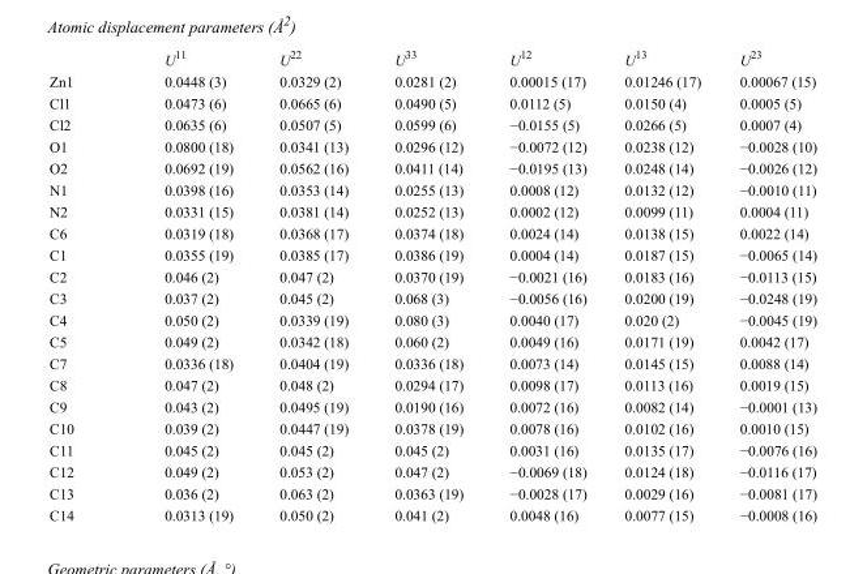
<table><thead><tr><td></td><td>U<sup>11</sup></td><td>U<sup>22</sup></td><td>U<sup>33</sup></td><td>U<sup>12</sup></td><td>U<sup>13</sup></td><td>U<sup>23</sup></td></tr></thead><tbody><tr><td>Zn1</td><td>0.0448 (3)</td><td>0.0329 (2)</td><td>0.0281 (2)</td><td>0.00015 (17)</td><td>0.01246 (17)</td><td>0.00067 (15)</td></tr><tr><td>Cl1</td><td>0.0473 (6)</td><td>0.0665 (6)</td><td>0.0490 (5)</td><td>0.0112 (5)</td><td>0.0150 (4)</td><td>0.0005 (5)</td></tr><tr><td>Cl2</td><td>0.0635 (6)</td><td>0.0507 (5)</td><td>0.0599 (6)</td><td>−0.0155 (5)</td><td>0.0266 (5)</td><td>0.0007 (4)</td></tr><tr><td>O1</td><td>0.0800 (18)</td><td>0.0341 (13)</td><td>0.0296 (12)</td><td>−0.0072 (12)</td><td>0.0238 (12)</td><td>−0.0028 (10)</td></tr><tr><td>O2</td><td>0.0692 (19)</td><td>0.0562 (16)</td><td>0.0411 (14)</td><td>−0.0195 (13)</td><td>0.0248 (14)</td><td>−0.0026 (12)</td></tr><tr><td>N1</td><td>0.0398 (16)</td><td>0.0353 (14)</td><td>0.0255 (13)</td><td>0.0008 (12)</td><td>0.0132 (12)</td><td>−0.0010 (11)</td></tr><tr><td>N2</td><td>0.0331 (15)</td><td>0.0381 (14)</td><td>0.0252 (13)</td><td>0.0002 (12)</td><td>0.0099 (11)</td><td>0.0004 (11)</td></tr><tr><td>C6</td><td>0.0319 (18)</td><td>0.0368 (17)</td><td>0.0374 (18)</td><td>0.0024 (14)</td><td>0.0138 (15)</td><td>0.0022 (14)</td></tr><tr><td>C1</td><td>0.0355 (19)</td><td>0.0385 (17)</td><td>0.0386 (19)</td><td>0.0004 (14)</td><td>0.0187 (15)</td><td>−0.0065 (14)</td></tr><tr><td>C2</td><td>0.046 (2)</td><td>0.047 (2)</td><td>0.0370 (19)</td><td>−0.0021 (16)</td><td>0.0183 (16)</td><td>−0.0113 (15)</td></tr><tr><td>C3</td><td>0.037 (2)</td><td>0.045 (2)</td><td>0.068 (3)</td><td>−0.0056 (16)</td><td>0.0200 (19)</td><td>−0.0248 (19)</td></tr><tr><td>C4</td><td>0.050 (2)</td><td>0.0339 (19)</td><td>0.080 (3)</td><td>0.0040 (17)</td><td>0.020 (2)</td><td>−0.0045 (19)</td></tr><tr><td>C5</td><td>0.049 (2)</td><td>0.0342 (18)</td><td>0.060 (2)</td><td>0.0049 (16)</td><td>0.0171 (19)</td><td>0.0042 (17)</td></tr><tr><td>C7</td><td>0.0336 (18)</td><td>0.0404 (19)</td><td>0.0336 (18)</td><td>0.0073 (14)</td><td>0.0145 (15)</td><td>0.0088 (14)</td></tr><tr><td>C8</td><td>0.047 (2)</td><td>0.048 (2)</td><td>0.0294 (17)</td><td>0.0098 (17)</td><td>0.0113 (16)</td><td>0.0019 (15)</td></tr><tr><td>C9</td><td>0.043 (2)</td><td>0.0495 (19)</td><td>0.0190 (16)</td><td>0.0072 (16)</td><td>0.0082 (14)</td><td>−0.0001 (13)</td></tr><tr><td>C10</td><td>0.039 (2)</td><td>0.0447 (19)</td><td>0.0378 (19)</td><td>0.0078 (16)</td><td>0.0102 (16)</td><td>0.0010 (15)</td></tr><tr><td>C11</td><td>0.045 (2)</td><td>0.045 (2)</td><td>0.045 (2)</td><td>0.0031 (16)</td><td>0.0135 (17)</td><td>−0.0076 (16)</td></tr><tr><td>C12</td><td>0.049 (2)</td><td>0.053 (2)</td><td>0.047 (2)</td><td>−0.0069 (18)</td><td>0.0124 (18)</td><td>−0.0116 (17)</td></tr><tr><td>C13</td><td>0.036 (2)</td><td>0.063 (2)</td><td>0.0363 (19)</td><td>−0.0028 (17)</td><td>0.0029 (16)</td><td>−0.0081 (17)</td></tr><tr><td>C14</td><td>0.0313 (19)</td><td>0.050 (2)</td><td>0.041 (2)</td><td>0.0048 (16)</td><td>0.0077 (15)</td><td>−0.0008 (16)</td></tr></tbody></table>